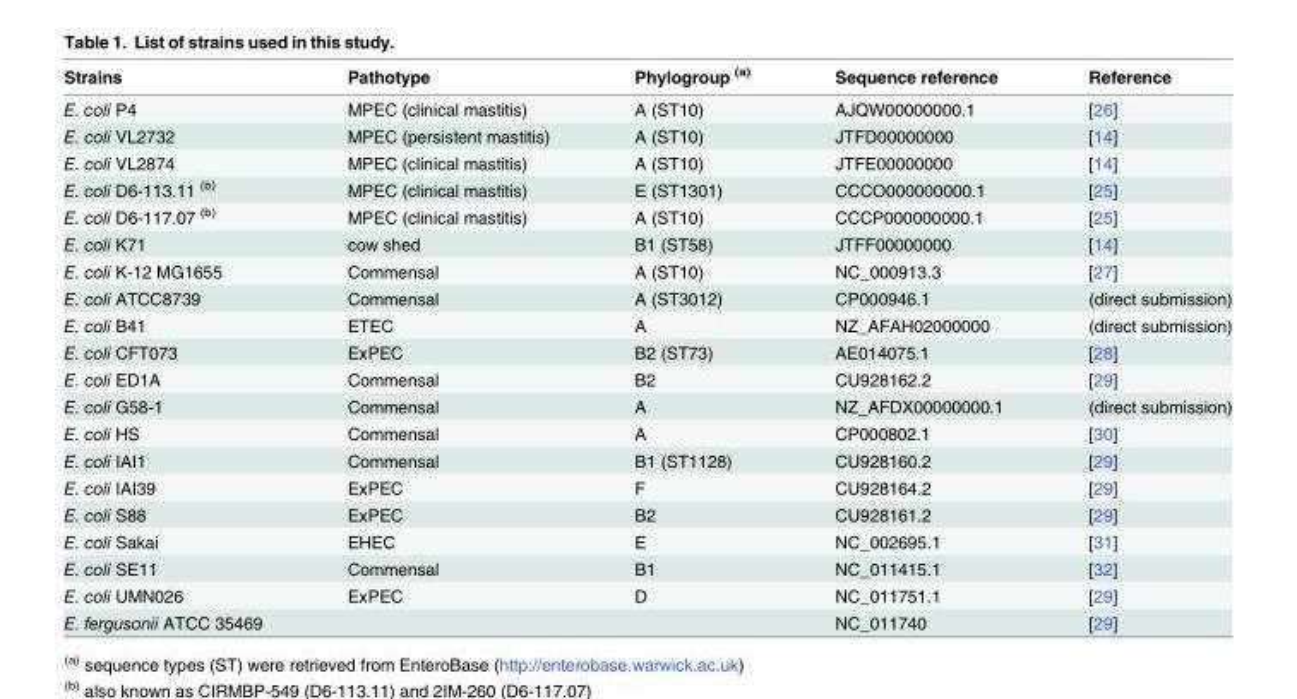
<table><thead><tr><td>Strains</td><td>Pathotype</td><td>Phylogroup <sup>(a)</sup></td><td>Sequence reference</td><td>Reference</td></tr></thead><tbody><tr><td>E. coli P4</td><td>MPEC (clinical mastitis)</td><td>A (ST10)</td><td>AJQW00000000.1</td><td>[26]</td></tr><tr><td>E. coli VL2732</td><td>MPEC (persistent mastitis)</td><td>A (ST10)</td><td>JTFD00000000</td><td>[14]</td></tr><tr><td>E. coli VL2874</td><td>MPEC (clinical mastitis)</td><td>A (ST10)</td><td>JTFE00000000</td><td>[14]</td></tr><tr><td>E. coli D6-113.11 <sup>(b)</sup></td><td>MPEC (clinical mastitis)</td><td>E (ST1301)</td><td>CCCO000000000.1</td><td>[25]</td></tr><tr><td>E. coli D6-117.07 <sup>(b)</sup></td><td>MPEC (clinical mastitis)</td><td>A (ST10)</td><td>CCCP000000000.1</td><td>[25]</td></tr><tr><td>E. coli K71</td><td>cow shed</td><td>B1 (ST58)</td><td>JTFF00000000</td><td>[14]</td></tr><tr><td>E. coli K-12 MG1655</td><td>Commensal</td><td>A (ST10)</td><td>NC_000913.3</td><td>[27]</td></tr><tr><td>E. coli ATCC8739</td><td>Commensal</td><td>A (ST3012)</td><td>CP000946.1</td><td>(direct submission)</td></tr><tr><td>E. coli B41</td><td>ETEC</td><td>A</td><td>NZ_AFAH02000000</td><td>(direct submission)</td></tr><tr><td>E. coli CFT073</td><td>ExPEC</td><td>B2 (ST73)</td><td>AE014075.1</td><td>[28]</td></tr><tr><td>E. coli ED1A</td><td>Commensal</td><td>B2</td><td>CU928162.2</td><td>[29]</td></tr><tr><td>E. coli G58-1</td><td>Commensal</td><td>A</td><td>NZ_AFDX00000000.1</td><td>(direct submission)</td></tr><tr><td>E. coli HS</td><td>Commensal</td><td>A</td><td>CP000802.1</td><td>[30]</td></tr><tr><td>E. coli IAI1</td><td>Commensal</td><td>B1 (ST1128)</td><td>CU928160.2</td><td>[29]</td></tr><tr><td>E. coli IAI39</td><td>ExPEC</td><td>F</td><td>CU928164.2</td><td>[29]</td></tr><tr><td>E. coli S88</td><td>ExPEC</td><td>B2</td><td>CU928161.2</td><td>[29]</td></tr><tr><td>E. coli Sakai</td><td>EHEC</td><td>E</td><td>NC_002695.1</td><td>[31]</td></tr><tr><td>E. coli SE11</td><td>Commensal</td><td>B1</td><td>NC_011415.1</td><td>[32]</td></tr><tr><td>E. coli UMN026</td><td>ExPEC</td><td>D</td><td>NC_011751.1</td><td>[29]</td></tr><tr><td>E. fergusonii ATCC 35469</td><td></td><td></td><td>NC_011740</td><td>[29]</td></tr></tbody></table>